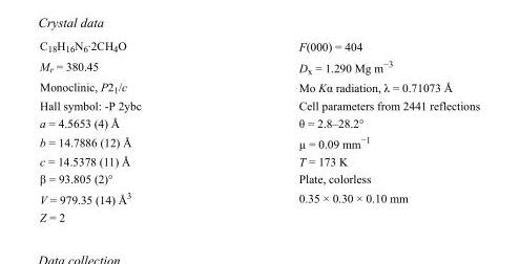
<table><tbody><tr><td>C<sub>18</sub>H<sub>16</sub>N<sub>6</sub>·2CH<sub>4</sub>O</td><td>F(000) = 404</td></tr><tr><td>M<sub>r</sub> = 380.45</td><td>D<sub>x</sub> = 1.290 Mg m<sup>−3</sup></td></tr><tr><td>Monoclinic, P2<sub>1</sub>/c</td><td>Mo Kα radiation, λ = 0.71073 Å</td></tr><tr><td>Hall symbol: -P 2ybc</td><td>Cell parameters from 2441 reflections</td></tr><tr><td>a = 4.5653 (4) Å</td><td>θ = 2.8–28.2°</td></tr><tr><td>b = 14.7886 (12) Å</td><td>µ = 0.09 mm<sup>−1</sup></td></tr><tr><td>c = 14.5378 (11) Å</td><td>T = 173 K</td></tr><tr><td>β = 93.805 (2)°</td><td>Plate, colorless</td></tr><tr><td>V = 979.35 (14) Å<sup>3</sup></td><td>0.35 × 0.30 × 0.10 mm</td></tr><tr><td>Z = 2</td><td></td></tr></tbody></table>